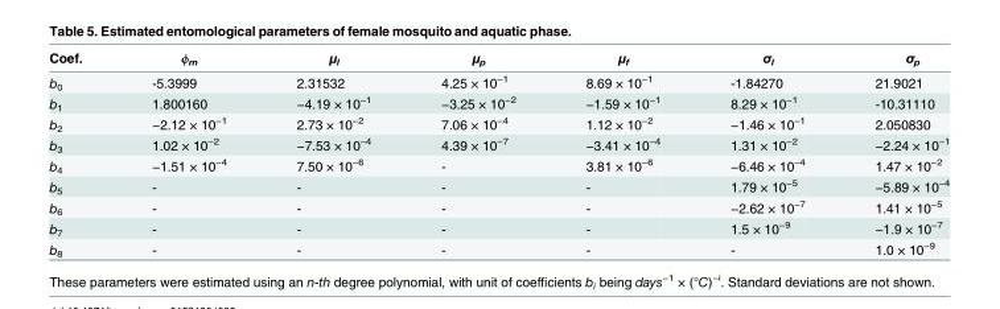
<table><thead><tr><td>Coef.</td><td>ϕ<sub>m</sub></td><td>μ<sub>l</sub></td><td>μ<sub>p</sub></td><td>μ<sub>f</sub></td><td>σ<sub>l</sub></td><td>σ<sub>p</sub></td></tr></thead><tbody><tr><td>b<sub>0</sub></td><td>-5.3999</td><td>2.31532</td><td>4.25 × 10<sup>−1</sup></td><td>8.69 × 10<sup>−1</sup></td><td>-1.84270</td><td>21.9021</td></tr><tr><td>b<sub>1</sub></td><td>1.800160</td><td>−4.19 × 10<sup>−1</sup></td><td>−3.25 × 10<sup>−2</sup></td><td>−1.59 × 10<sup>−1</sup></td><td>8.29 × 10<sup>−1</sup></td><td>-10.31110</td></tr><tr><td>b<sub>2</sub></td><td>−2.12 × 10<sup>−1</sup></td><td>2.73 × 10<sup>−2</sup></td><td>7.06 × 10<sup>−4</sup></td><td>1.12 × 10<sup>−2</sup></td><td>−1.46 × 10<sup>−1</sup></td><td>2.050830</td></tr><tr><td>b<sub>3</sub></td><td>1.02 × 10<sup>−2</sup></td><td>−7.53 × 10<sup>−4</sup></td><td>4.39 × 10<sup>−7</sup></td><td>−3.41 × 10<sup>−4</sup></td><td>1.31 × 10<sup>−2</sup></td><td>−2.24 × 10<sup>−1</sup></td></tr><tr><td>b<sub>4</sub></td><td>−1.51 × 10<sup>−4</sup></td><td>7.50 × 10<sup>−6</sup></td><td>-</td><td>3.81 × 10<sup>−6</sup></td><td>−6.46 × 10<sup>−4</sup></td><td>1.47 × 10<sup>−2</sup></td></tr><tr><td>b<sub>5</sub></td><td>-</td><td>-</td><td>-</td><td>-</td><td>1.79 × 10<sup>−5</sup></td><td>−5.89 × 10<sup>−4</sup></td></tr><tr><td>b<sub>6</sub></td><td>-</td><td>-</td><td>-</td><td>-</td><td>−2.62 × 10<sup>−7</sup></td><td>1.41 × 10<sup>−5</sup></td></tr><tr><td>b<sub>7</sub></td><td>-</td><td>-</td><td>-</td><td>-</td><td>1.5 × 10<sup>−9</sup></td><td>−1.9 × 10<sup>−7</sup></td></tr><tr><td>b<sub>8</sub></td><td>-</td><td>-</td><td>-</td><td>-</td><td>-</td><td>1.0 × 10<sup>−9</sup></td></tr></tbody></table>